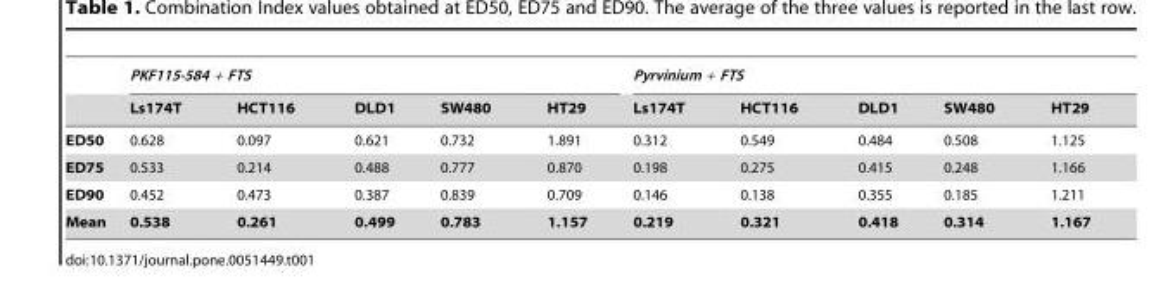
<table><thead><tr><td rowspan="2"></td><td colspan="5">PKF115-584 + FTS</td><td colspan="5">Pyrvinium + FTS</td></tr><tr><td>Ls174T</td><td>HCT116</td><td>DLD1</td><td>SW480</td><td>HT29</td><td>Ls174T</td><td>HCT116</td><td>DLD1</td><td>SW480</td><td>HT29</td></tr></thead><tbody><tr><td>ED50</td><td>0.628</td><td>0.097</td><td>0.621</td><td>0.732</td><td>1.891</td><td>0.312</td><td>0.549</td><td>0.484</td><td>0.508</td><td>1.125</td></tr><tr><td>ED75</td><td>0.533</td><td>0.214</td><td>0.488</td><td>0.777</td><td>0.870</td><td>0.198</td><td>0.275</td><td>0.415</td><td>0.248</td><td>1.166</td></tr><tr><td>ED90</td><td>0.452</td><td>0.473</td><td>0.387</td><td>0.839</td><td>0.709</td><td>0.146</td><td>0.138</td><td>0.355</td><td>0.185</td><td>1.211</td></tr><tr><td>Mean</td><td>0.538</td><td>0.261</td><td>0.499</td><td>0.783</td><td>1.157</td><td>0.219</td><td>0.321</td><td>0.418</td><td>0.314</td><td>1.167</td></tr></tbody></table>